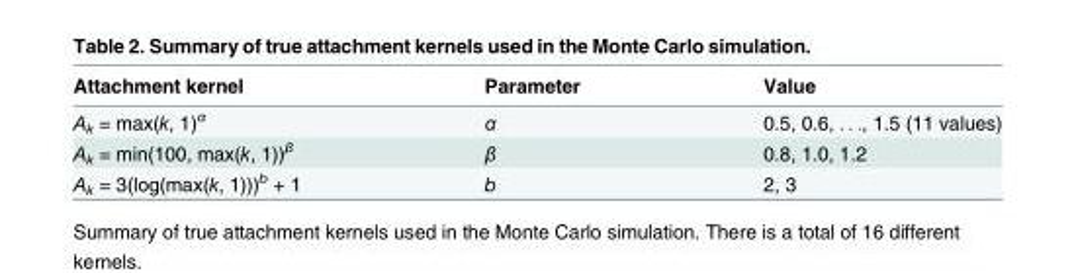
<table><thead><tr><td>Attachment kernel</td><td>Parameter</td><td>Value</td></tr></thead><tbody><tr><td>A<sub>k</sub> = max(k, 1)<sup>α</sup></td><td>α</td><td>0.5, 0.6, . . ., 1.5 (11 values)</td></tr><tr><td>A<sub>k</sub> = min(100, max(k, 1))<sup>β</sup></td><td>β</td><td>0.8, 1.0, 1.2</td></tr><tr><td>A<sub>k</sub> = 3(log(max(k, 1)))<sup>b</sup> + 1</td><td>b</td><td>2, 3</td></tr></tbody></table>